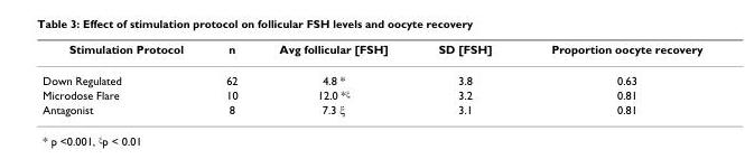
<table><thead><tr><td>Stimulation Protocol</td><td>n</td><td>Avg follicular [FSH]</td><td>SD [FSH]</td><td>Proportion oocyte recovery</td></tr></thead><tbody><tr><td>Down Regulated</td><td>62</td><td>4.8 *</td><td>3.8</td><td>0.63</td></tr><tr><td>Microdose Flare</td><td>10</td><td>12.0 *<sup>ξ</sup></td><td>3.2</td><td>0.81</td></tr><tr><td>Antagonist</td><td>8</td><td>7.3 ξ</td><td>3.1</td><td>0.81</td></tr></tbody></table>